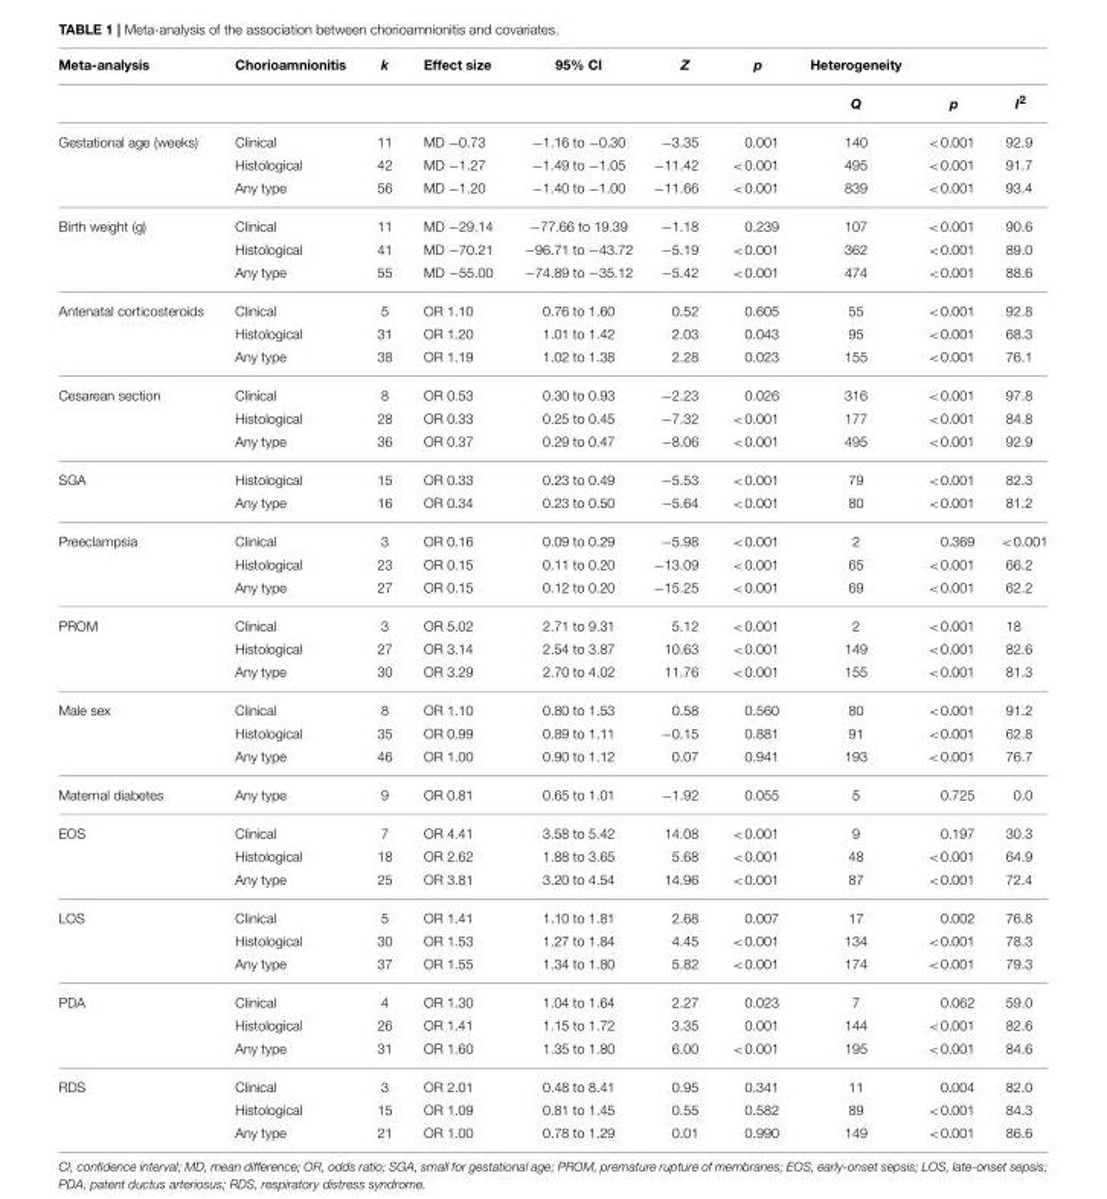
<table><thead><tr><td rowspan="2">Meta-analysis</td><td rowspan="2">Chorioamnionitis</td><td rowspan="2">k</td><td rowspan="2">Effect size</td><td rowspan="2">95% CI</td><td rowspan="2">Z</td><td rowspan="2">p</td><td rowspan="2">Heterogeneity Q</td><td rowspan="2">p</td><td rowspan="2">I<sup>2</sup></td></tr><tr></tr></thead><tbody><tr><td rowspan="3">Gestational age (weeks)</td><td>Clinical</td><td>11</td><td>MD −0.73</td><td>−1.16 to −0.30</td><td>−3.35</td><td>0.001</td><td>140</td><td>&lt;0.001</td><td>92.9</td></tr><tr><td>Histological</td><td>42</td><td>MD −1.27</td><td>−1.49 to −1.05</td><td>−11.42</td><td>&lt;0.001</td><td>495</td><td>&lt;0.001</td><td>91.7</td></tr><tr><td>Any type</td><td>56</td><td>MD −1.20</td><td>−1.40 to −1.00</td><td>−11.66</td><td>&lt;0.001</td><td>839</td><td>&lt;0.001</td><td>93.4</td></tr><tr><td rowspan="3">Birth weight (g)</td><td>Clinical</td><td>11</td><td>MD −29.14</td><td>−77.66 to 19.39</td><td>−1.18</td><td>0.239</td><td>107</td><td>&lt;0.001</td><td>90.6</td></tr><tr><td>Histological</td><td>41</td><td>MD −70.21</td><td>−96.71 to −43.72</td><td>−5.19</td><td>&lt;0.001</td><td>362</td><td>&lt;0.001</td><td>89.0</td></tr><tr><td>Any type</td><td>55</td><td>MD −55.00</td><td>−74.89 to −35.12</td><td>−5.42</td><td>&lt;0.001</td><td>474</td><td>&lt;0.001</td><td>88.6</td></tr><tr><td rowspan="3">Antenatal corticosteroids</td><td>Clinical</td><td>5</td><td>OR 1.10</td><td>0.76 to 1.60</td><td>0.52</td><td>0.605</td><td>55</td><td>&lt;0.001</td><td>92.8</td></tr><tr><td>Histological</td><td>31</td><td>OR 1.20</td><td>1.01 to 1.42</td><td>2.03</td><td>0.043</td><td>95</td><td>&lt;0.001</td><td>68.3</td></tr><tr><td>Any type</td><td>38</td><td>OR 1.19</td><td>1.02 to 1.38</td><td>2.28</td><td>0.023</td><td>155</td><td>&lt;0.001</td><td>76.1</td></tr><tr><td rowspan="3">Cesarean section</td><td>Clinical</td><td>8</td><td>OR 0.53</td><td>0.30 to 0.93</td><td>−2.23</td><td>0.026</td><td>316</td><td>&lt;0.001</td><td>97.8</td></tr><tr><td>Histological</td><td>28</td><td>OR 0.33</td><td>0.25 to 0.45</td><td>−7.32</td><td>&lt;0.001</td><td>177</td><td>&lt;0.001</td><td>84.8</td></tr><tr><td>Any type</td><td>36</td><td>OR 0.37</td><td>0.29 to 0.47</td><td>−8.06</td><td>&lt;0.001</td><td>495</td><td>&lt;0.001</td><td>92.9</td></tr><tr><td rowspan="2">SGA</td><td>Histological</td><td>15</td><td>OR 0.33</td><td>0.23 to 0.49</td><td>−5.53</td><td>&lt;0.001</td><td>79</td><td>&lt;0.001</td><td>82.3</td></tr><tr><td>Any type</td><td>16</td><td>OR 0.34</td><td>0.23 to 0.50</td><td>−5.64</td><td>&lt;0.001</td><td>80</td><td>&lt;0.001</td><td>81.2</td></tr><tr><td rowspan="3">Preeclampsia</td><td>Clinical</td><td>3</td><td>OR 0.16</td><td>0.09 to 0.29</td><td>−5.98</td><td>&lt;0.001</td><td>2</td><td>0.369</td><td>&lt;0.001</td></tr><tr><td>Histological</td><td>23</td><td>OR 0.15</td><td>0.11 to 0.20</td><td>−13.09</td><td>&lt;0.001</td><td>65</td><td>&lt;0.001</td><td>66.2</td></tr><tr><td>Any type</td><td>27</td><td>OR 0.15</td><td>0.12 to 0.20</td><td>−15.25</td><td>&lt;0.001</td><td>69</td><td>&lt;0.001</td><td>62.2</td></tr><tr><td rowspan="3">PROM</td><td>Clinical</td><td>3</td><td>OR 5.02</td><td>2.71 to 9.31</td><td>5.12</td><td>&lt;0.001</td><td>2</td><td>&lt;0.001</td><td>18</td></tr><tr><td>Histological</td><td>27</td><td>OR 3.14</td><td>2.54 to 3.87</td><td>10.63</td><td>&lt;0.001</td><td>149</td><td>&lt;0.001</td><td>82.6</td></tr><tr><td>Any type</td><td>30</td><td>OR 3.29</td><td>2.70 to 4.02</td><td>11.76</td><td>&lt;0.001</td><td>155</td><td>&lt;0.001</td><td>81.3</td></tr><tr><td rowspan="3">Male sex</td><td>Clinical</td><td>8</td><td>OR 1.10</td><td>0.80 to 1.53</td><td>0.58</td><td>0.560</td><td>80</td><td>&lt;0.001</td><td>91.2</td></tr><tr><td>Histological</td><td>35</td><td>OR 0.99</td><td>0.89 to 1.11</td><td>−0.15</td><td>0.881</td><td>91</td><td>&lt;0.001</td><td>62.8</td></tr><tr><td>Any type</td><td>46</td><td>OR 1.00</td><td>0.90 to 1.12</td><td>0.07</td><td>0.941</td><td>193</td><td>&lt;0.001</td><td>76.7</td></tr><tr><td>Maternal diabetes</td><td>Any type</td><td>9</td><td>OR 0.81</td><td>0.65 to 1.01</td><td>−1.92</td><td>0.055</td><td>5</td><td>0.725</td><td>0.0</td></tr><tr><td rowspan="3">EOS</td><td>Clinical</td><td>7</td><td>OR 4.41</td><td>3.58 to 5.42</td><td>14.08</td><td>&lt;0.001</td><td>9</td><td>0.197</td><td>30.3</td></tr><tr><td>Histological</td><td>18</td><td>OR 2.62</td><td>1.88 to 3.65</td><td>5.68</td><td>&lt;0.001</td><td>48</td><td>&lt;0.001</td><td>64.9</td></tr><tr><td>Any type</td><td>25</td><td>OR 3.81</td><td>3.20 to 4.54</td><td>14.96</td><td>&lt;0.001</td><td>87</td><td>&lt;0.001</td><td>72.4</td></tr><tr><td rowspan="3">LOS</td><td>Clinical</td><td>5</td><td>OR 1.41</td><td>1.10 to 1.81</td><td>2.68</td><td>0.007</td><td>17</td><td>0.002</td><td>76.8</td></tr><tr><td>Histological</td><td>30</td><td>OR 1.53</td><td>1.27 to 1.84</td><td>4.45</td><td>&lt;0.001</td><td>134</td><td>&lt;0.001</td><td>78.3</td></tr><tr><td>Any type</td><td>37</td><td>OR 1.55</td><td>1.34 to 1.80</td><td>5.82</td><td>&lt;0.001</td><td>174</td><td>&lt;0.001</td><td>79.3</td></tr><tr><td rowspan="3">PDA</td><td>Clinical</td><td>4</td><td>OR 1.30</td><td>1.04 to 1.64</td><td>2.27</td><td>0.023</td><td>7</td><td>0.062</td><td>59.0</td></tr><tr><td>Histological</td><td>26</td><td>OR 1.41</td><td>1.15 to 1.72</td><td>3.35</td><td>0.001</td><td>144</td><td>&lt;0.001</td><td>82.6</td></tr><tr><td>Any type</td><td>31</td><td>OR 1.60</td><td>1.35 to 1.80</td><td>6.00</td><td>&lt;0.001</td><td>195</td><td>&lt;0.001</td><td>84.6</td></tr><tr><td rowspan="3">RDS</td><td>Clinical</td><td>3</td><td>OR 2.01</td><td>0.48 to 8.41</td><td>0.95</td><td>0.341</td><td>11</td><td>0.004</td><td>82.0</td></tr><tr><td>Histological</td><td>15</td><td>OR 1.09</td><td>0.81 to 1.45</td><td>0.55</td><td>0.582</td><td>89</td><td>&lt;0.001</td><td>84.3</td></tr><tr><td>Any type</td><td>21</td><td>OR 1.00</td><td>0.78 to 1.29</td><td>0.01</td><td>0.990</td><td>149</td><td>&lt;0.001</td><td>86.6</td></tr></tbody></table>